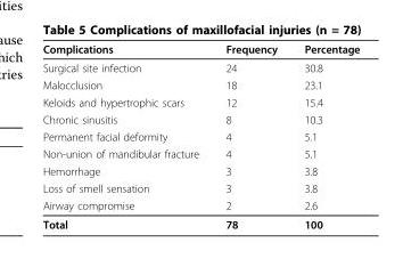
<table><thead><tr><td>Complications</td><td>Frequency</td><td>Percentage</td></tr></thead><tbody><tr><td>Surgical site infection</td><td>24</td><td>30.8</td></tr><tr><td>Malocclusion</td><td>18</td><td>23.1</td></tr><tr><td>Keloids and hypertrophic scars</td><td>12</td><td>15.4</td></tr><tr><td>Chronic sinusitis</td><td>8</td><td>10.3</td></tr><tr><td>Permanent facial deformity</td><td>4</td><td>5.1</td></tr><tr><td>Non-union of mandibular fracture</td><td>4</td><td>5.1</td></tr><tr><td>Hemorrhage</td><td>3</td><td>3.8</td></tr><tr><td>Loss of smell sensation</td><td>3</td><td>3.8</td></tr><tr><td>Airway compromise</td><td>2</td><td>2.6</td></tr><tr><td>Total</td><td>78</td><td>100</td></tr></tbody></table>